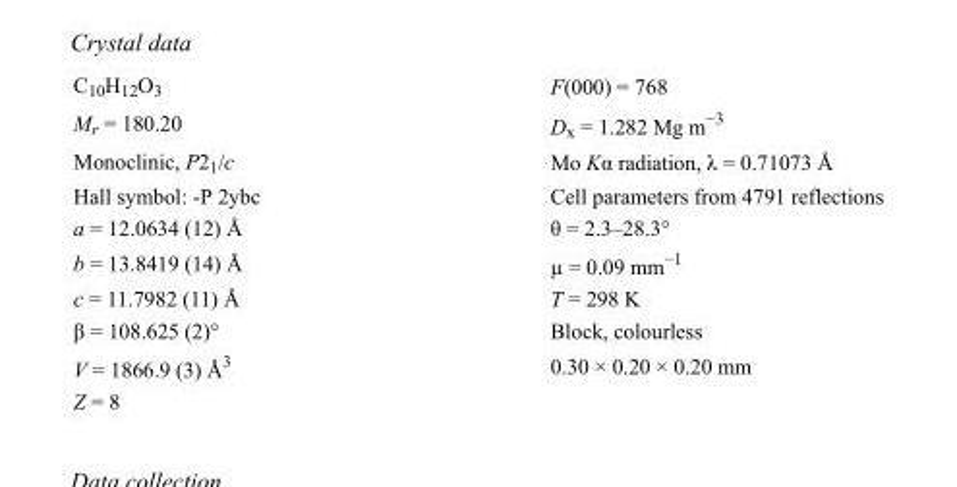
<table><tbody><tr><td>C<sub>10</sub>H<sub>12</sub>O<sub>3</sub></td><td>F(000) = 768</td></tr><tr><td>M<sub>r</sub> = 180.20</td><td>D<sub>x</sub> = 1.282 Mg m<sup>−3</sup></td></tr><tr><td>Monoclinic, P2<sub>1</sub>/c</td><td>Mo Kα radiation, λ = 0.71073 Å</td></tr><tr><td>Hall symbol: -P 2ybc</td><td>Cell parameters from 4791 reflections</td></tr><tr><td>a = 12.0634 (12) Å</td><td>θ = 2.3–28.3°</td></tr><tr><td>b = 13.8419 (14) Å</td><td>µ = 0.09 mm<sup>−1</sup></td></tr><tr><td>c = 11.7982 (11) Å</td><td>T = 298 K</td></tr><tr><td>β = 108.625 (2)°</td><td>Block, colourless</td></tr><tr><td>V = 1866.9 (3) Å<sup>3</sup></td><td>0.30 × 0.20 × 0.20 mm</td></tr><tr><td>Z = 8</td><td></td></tr></tbody></table>